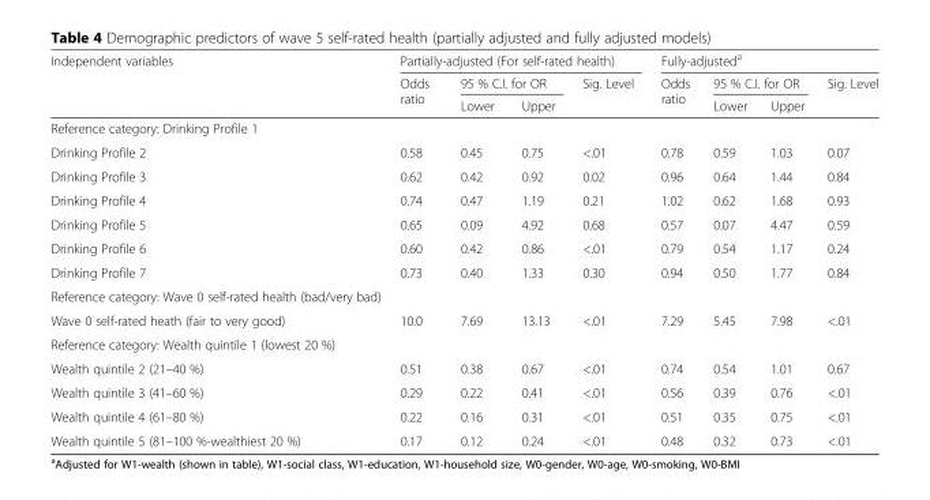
<table><thead><tr><td rowspan="3">Independent variables</td><td colspan="4">Partially-adjusted (For self-rated health)</td><td colspan="4">Fully-adjusted<sup>a</sup></td></tr><tr><td rowspan="2">Odds ratio</td><td colspan="2">95 % C.I. for OR</td><td rowspan="2">Sig. Level</td><td rowspan="2">Odds ratio</td><td colspan="2">95 % C.I. for OR</td><td rowspan="2">Sig. Level</td></tr><tr><td>Lower</td><td>Upper</td><td>Lower</td><td>Upper</td></tr></thead><tbody><tr><td colspan="9">Reference category: Drinking Profile 1</td></tr><tr><td>Drinking Profile 2</td><td>0.58</td><td>0.45</td><td>0.75</td><td>&lt;.01</td><td>0.78</td><td>0.59</td><td>1.03</td><td>0.07</td></tr><tr><td>Drinking Profile 3</td><td>0.62</td><td>0.42</td><td>0.92</td><td>0.02</td><td>0.96</td><td>0.64</td><td>1.44</td><td>0.84</td></tr><tr><td>Drinking Profile 4</td><td>0.74</td><td>0.47</td><td>1.19</td><td>0.21</td><td>1.02</td><td>0.62</td><td>1.68</td><td>0.93</td></tr><tr><td>Drinking Profile 5</td><td>0.65</td><td>0.09</td><td>4.92</td><td>0.68</td><td>0.57</td><td>0.07</td><td>4.47</td><td>0.59</td></tr><tr><td>Drinking Profile 6</td><td>0.60</td><td>0.42</td><td>0.86</td><td>&lt;.01</td><td>0.79</td><td>0.54</td><td>1.17</td><td>0.24</td></tr><tr><td>Drinking Profile 7</td><td>0.73</td><td>0.40</td><td>1.33</td><td>0.30</td><td>0.94</td><td>0.50</td><td>1.77</td><td>0.84</td></tr><tr><td colspan="9">Reference category: Wave 0 self-rated health (bad/very bad)</td></tr><tr><td>Wave 0 self-rated heath (fair to very good)</td><td>10.0</td><td>7.69</td><td>13.13</td><td>&lt;.01</td><td>7.29</td><td>5.45</td><td>7.98</td><td>&lt;.01</td></tr><tr><td colspan="9">Reference category: Wealth quintile 1 (lowest 20 %)</td></tr><tr><td>Wealth quintile 2 (21–40 %)</td><td>0.51</td><td>0.38</td><td>0.67</td><td>&lt;.01</td><td>0.74</td><td>0.54</td><td>1.01</td><td>0.67</td></tr><tr><td>Wealth quintile 3 (41–60 %)</td><td>0.29</td><td>0.22</td><td>0.41</td><td>&lt;.01</td><td>0.56</td><td>0.39</td><td>0.76</td><td>&lt;.01</td></tr><tr><td>Wealth quintile 4 (61–80 %)</td><td>0.22</td><td>0.16</td><td>0.31</td><td>&lt;.01</td><td>0.51</td><td>0.35</td><td>0.75</td><td>&lt;.01</td></tr><tr><td>Wealth quintile 5 (81–100 %-wealthiest 20 %)</td><td>0.17</td><td>0.12</td><td>0.24</td><td>&lt;.01</td><td>0.48</td><td>0.32</td><td>0.73</td><td>&lt;.01</td></tr></tbody></table>